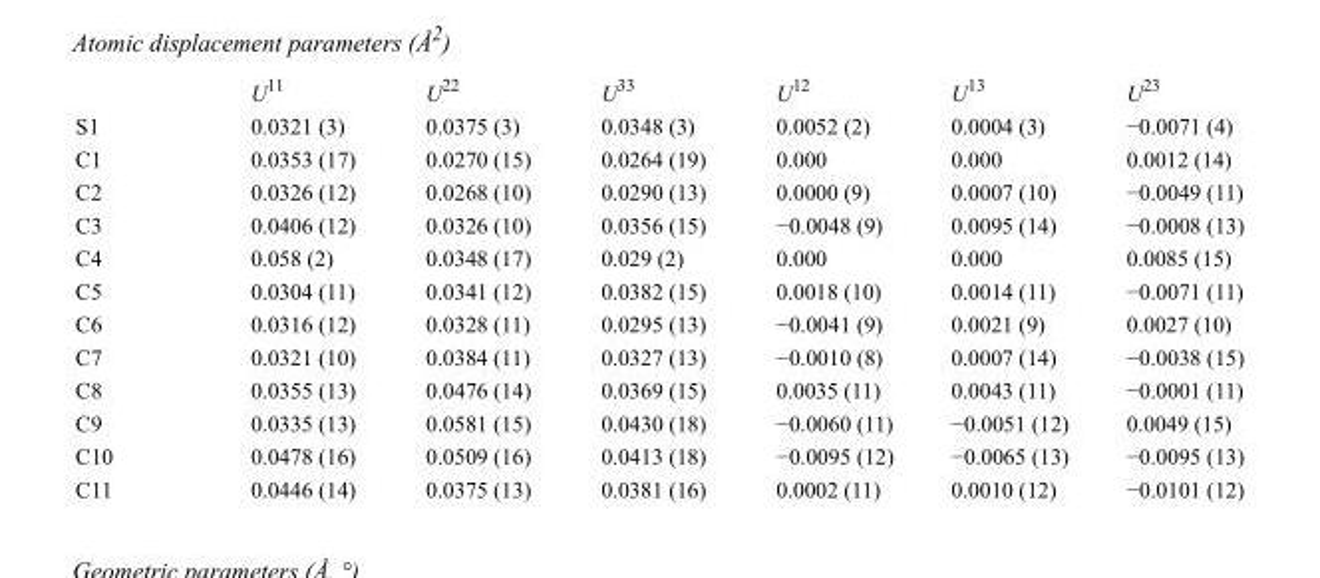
<table><thead><tr><td></td><td>U<sup>11</sup></td><td>U<sup>22</sup></td><td>U<sup>33</sup></td><td>U<sup>12</sup></td><td>U<sup>13</sup></td><td>U<sup>23</sup></td></tr></thead><tbody><tr><td>S1</td><td>0.0321 (3)</td><td>0.0375 (3)</td><td>0.0348 (3)</td><td>0.0052 (2)</td><td>0.0004 (3)</td><td>−0.0071 (4)</td></tr><tr><td>C1</td><td>0.0353 (17)</td><td>0.0270 (15)</td><td>0.0264 (19)</td><td>0.000</td><td>0.000</td><td>0.0012 (14)</td></tr><tr><td>C2</td><td>0.0326 (12)</td><td>0.0268 (10)</td><td>0.0290 (13)</td><td>0.0000 (9)</td><td>0.0007 (10)</td><td>−0.0049 (11)</td></tr><tr><td>C3</td><td>0.0406 (12)</td><td>0.0326 (10)</td><td>0.0356 (15)</td><td>−0.0048 (9)</td><td>0.0095 (14)</td><td>−0.0008 (13)</td></tr><tr><td>C4</td><td>0.058 (2)</td><td>0.0348 (17)</td><td>0.029 (2)</td><td>0.000</td><td>0.000</td><td>0.0085 (15)</td></tr><tr><td>C5</td><td>0.0304 (11)</td><td>0.0341 (12)</td><td>0.0382 (15)</td><td>0.0018 (10)</td><td>0.0014 (11)</td><td>−0.0071 (11)</td></tr><tr><td>C6</td><td>0.0316 (12)</td><td>0.0328 (11)</td><td>0.0295 (13)</td><td>−0.0041 (9)</td><td>0.0021 (9)</td><td>0.0027 (10)</td></tr><tr><td>C7</td><td>0.0321 (10)</td><td>0.0384 (11)</td><td>0.0327 (13)</td><td>−0.0010 (8)</td><td>0.0007 (14)</td><td>−0.0038 (15)</td></tr><tr><td>C8</td><td>0.0355 (13)</td><td>0.0476 (14)</td><td>0.0369 (15)</td><td>0.0035 (11)</td><td>0.0043 (11)</td><td>−0.0001 (11)</td></tr><tr><td>C9</td><td>0.0335 (13)</td><td>0.0581 (15)</td><td>0.0430 (18)</td><td>−0.0060 (11)</td><td>−0.0051 (12)</td><td>0.0049 (15)</td></tr><tr><td>C10</td><td>0.0478 (16)</td><td>0.0509 (16)</td><td>0.0413 (18)</td><td>−0.0095 (12)</td><td>−0.0065 (13)</td><td>−0.0095 (13)</td></tr><tr><td>C11</td><td>0.0446 (14)</td><td>0.0375 (13)</td><td>0.0381 (16)</td><td>0.0002 (11)</td><td>0.0010 (12)</td><td>−0.0101 (12)</td></tr></tbody></table>